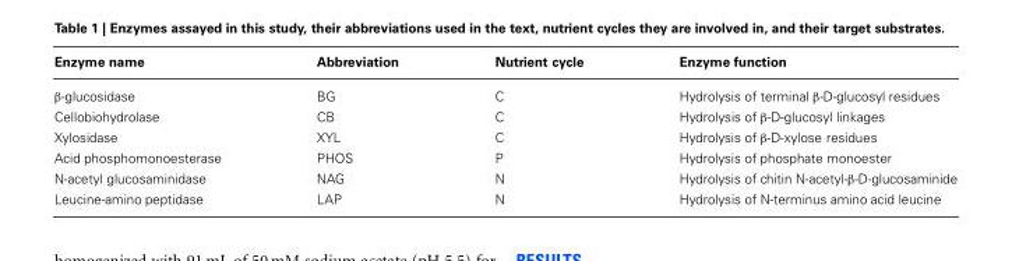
<table><thead><tr><td>Enzyme name</td><td>Abbreviation</td><td>Nutrient cycle</td><td>Enzyme function</td></tr></thead><tbody><tr><td>β-glucosidase</td><td>BG</td><td>C</td><td>Hydrolysis of terminal β-D-glucosyl residues</td></tr><tr><td>Cellobiohydrolase</td><td>CB</td><td>C</td><td>Hydrolysis of β-D-glucosyl linkages</td></tr><tr><td>Xylosidase</td><td>XYL</td><td>C</td><td>Hydrolysis of β-D-xylose residues</td></tr><tr><td>Acid phosphomonoesterase</td><td>PHOS</td><td>P</td><td>Hydrolysis of phosphate monoester</td></tr><tr><td>N-acetyl glucosaminidase</td><td>NAG</td><td>N</td><td>Hydrolysis of chitin N-acetyl-β-D-glucosaminide</td></tr><tr><td>Leucine-amino peptidase</td><td>LAP</td><td>N</td><td>Hydrolysis of N-terminus amino acid leucine</td></tr></tbody></table>